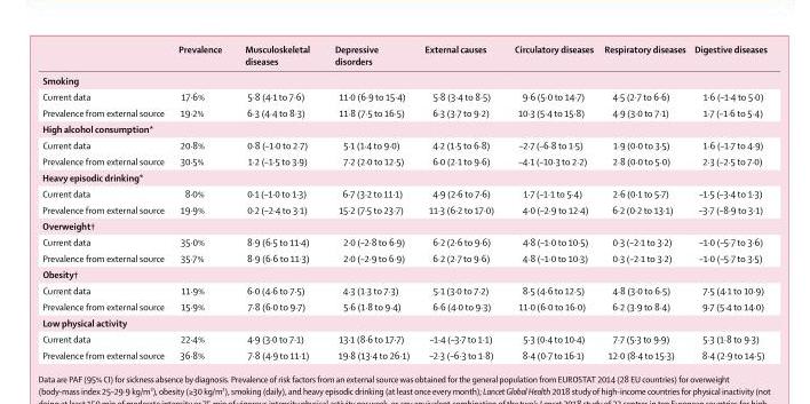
<table><thead><tr><td></td><td>Prevalence</td><td>Musculoskeletal diseases</td><td>Depressive disorders</td><td>External causes</td><td>Circulatory diseases</td><td>Respiratory diseases</td><td>Digestive diseases</td></tr></thead><tbody><tr><td colspan="8">Smoking</td></tr><tr><td>Current data</td><td>17·6%</td><td>5·8 (4·1 to 7·6)</td><td>11·0 (6·9 to 15·4)</td><td>5·8 (3·4 to 8·5)</td><td>9·6 (5·0 to 14·7)</td><td>4·5 (2·7 to 6·6)</td><td>1·6 (–1·4 to 5·0)</td></tr><tr><td>Prevalence from external source</td><td>19·2%</td><td>6·3 (4·4 to 8·3)</td><td>11·8 (7·5 to 16·5)</td><td>6·3 (3·7 to 9·2)</td><td>10·3 (5·4 to 15·8)</td><td>4·9 (3·0 to 7·1)</td><td>1·7 (–1·6 to 5·4)</td></tr><tr><td colspan="8">High alcohol consumption*</td></tr><tr><td>Current data</td><td>20·8%</td><td>0·8 (–1·0 to 2·7)</td><td>5·1 (1·4 to 9·0)</td><td>4·2 (1·5 to 6·8)</td><td>–2·7 (–6·8 to 1·5)</td><td>1·9 (0·0 to 3·5)</td><td>1·6 (–1·7 to 4·9)</td></tr><tr><td>Prevalence from external source</td><td>30·5%</td><td>1·2 (–1·5 to 3·9)</td><td>7·2 (2·0 to 12·5)</td><td>6·0 (2·1 to 9·6)</td><td>–4·1 (–10·3 to 2·2)</td><td>2·8 (0·0 to 5·0)</td><td>2·3 (–2·5 to 7·0)</td></tr><tr><td colspan="8">Heavy episodic drinking*</td></tr><tr><td>Current data</td><td>8·0%</td><td>0·1 (–1·0 to 1·3)</td><td>6·7 (3·2 to 11·1)</td><td>4·9 (2·6 to 7·6)</td><td>1·7 (–1·1 to 5·4)</td><td>2·6 (0·1 to 5·7)</td><td>–1·5 (–3·4 to 1·3)</td></tr><tr><td>Prevalence from external source</td><td>19·9%</td><td>0·2 (–2·4 to 3·1)</td><td>15·2 (7·5 to 23·7)</td><td>11·3 (6·2 to 17·0)</td><td>4·0 (–2·9 to 12·4)</td><td>6·2 (0·2 to 13·1)</td><td>–3·7 (–8·9 to 3·1)</td></tr><tr><td colspan="8">Overweight†</td></tr><tr><td>Current data</td><td>35·0%</td><td>8·9 (6·5 to 11·4)</td><td>2·0 (–2·8 to 6·9)</td><td>6·2 (2·6 to 9·6)</td><td>4·8 (–1·0 to 10·5)</td><td>0·3 (–2·1 to 3·2)</td><td>–1·0 (–5·7 to 3·6)</td></tr><tr><td>Prevalence from external source</td><td>35·7%</td><td>8·9 (6·6 to 11·3)</td><td>2·0 (–2·9 to 6·9)</td><td>6·2 (2·7 to 9·6)</td><td>4·8 (–1·0 to 10·3)</td><td>0·3 (–2·1 to 3·2)</td><td>–1·0 (–5·7 to 3·5)</td></tr><tr><td colspan="8">Obesity†</td></tr><tr><td>Current data</td><td>11·9%</td><td>6·0 (4·6 to 7·5)</td><td>4·3 (1·3 to 7·3)</td><td>5·1 (3·0 to 7·2)</td><td>8·5 (4·6 to 12·5)</td><td>4·8 (3·0 to 6·5)</td><td>7·5 (4·1 to 10·9)</td></tr><tr><td>Prevalence from external source</td><td>15·9%</td><td>7·8 (6·0 to 9·7)</td><td>5·6 (1·8 to 9·4)</td><td>6·6 (4·0 to 9·3)</td><td>11·0 (6·0 to 16·0)</td><td>6·2 (3·9 to 8·4)</td><td>9·7 (5·4 to 14·0)</td></tr><tr><td colspan="8">Low physical activity</td></tr><tr><td>Current data</td><td>22·4%</td><td>4·9 (3·0 to 7·1)</td><td>13·1 (8·6 to 17·7)</td><td>–1·4 (–3·7 to 1·1)</td><td>5·3 (0·4 to 10·4)</td><td>7·7 (5·3 to 9·9)</td><td>5·3 (1·8 to 9·3)</td></tr><tr><td>Prevalence from external source</td><td>36·8%</td><td>7·8 (4·9 to 11·1)</td><td>19·8 (13·4 to 26·1)</td><td>–2·3 (–6·3 to 1·8)</td><td>8·4 (0·7 to 16·1)</td><td>12·0 (8·4 to 15·3)</td><td>8·4 (2·9 to 14·5)</td></tr></tbody></table>